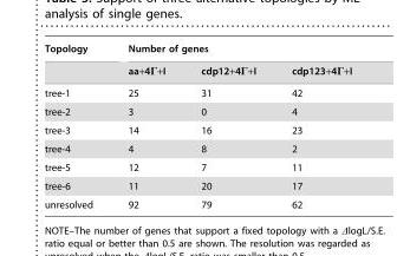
<table><thead><tr><td rowspan="2">Topology</td><td colspan="3">Number of genes</td></tr><tr><td>aa+4Γ+I</td><td>cdp12+4Γ+I</td><td>cdp123+4Γ+I</td></tr></thead><tbody><tr><td>tree-1</td><td>25</td><td>31</td><td>42</td></tr><tr><td>tree-2</td><td>3</td><td>0</td><td>4</td></tr><tr><td>tree-3</td><td>14</td><td>16</td><td>23</td></tr><tr><td>tree-4</td><td>4</td><td>8</td><td>2</td></tr><tr><td>tree-5</td><td>12</td><td>7</td><td>11</td></tr><tr><td>tree-6</td><td>11</td><td>20</td><td>17</td></tr><tr><td>unresolved</td><td>92</td><td>79</td><td>62</td></tr></tbody></table>